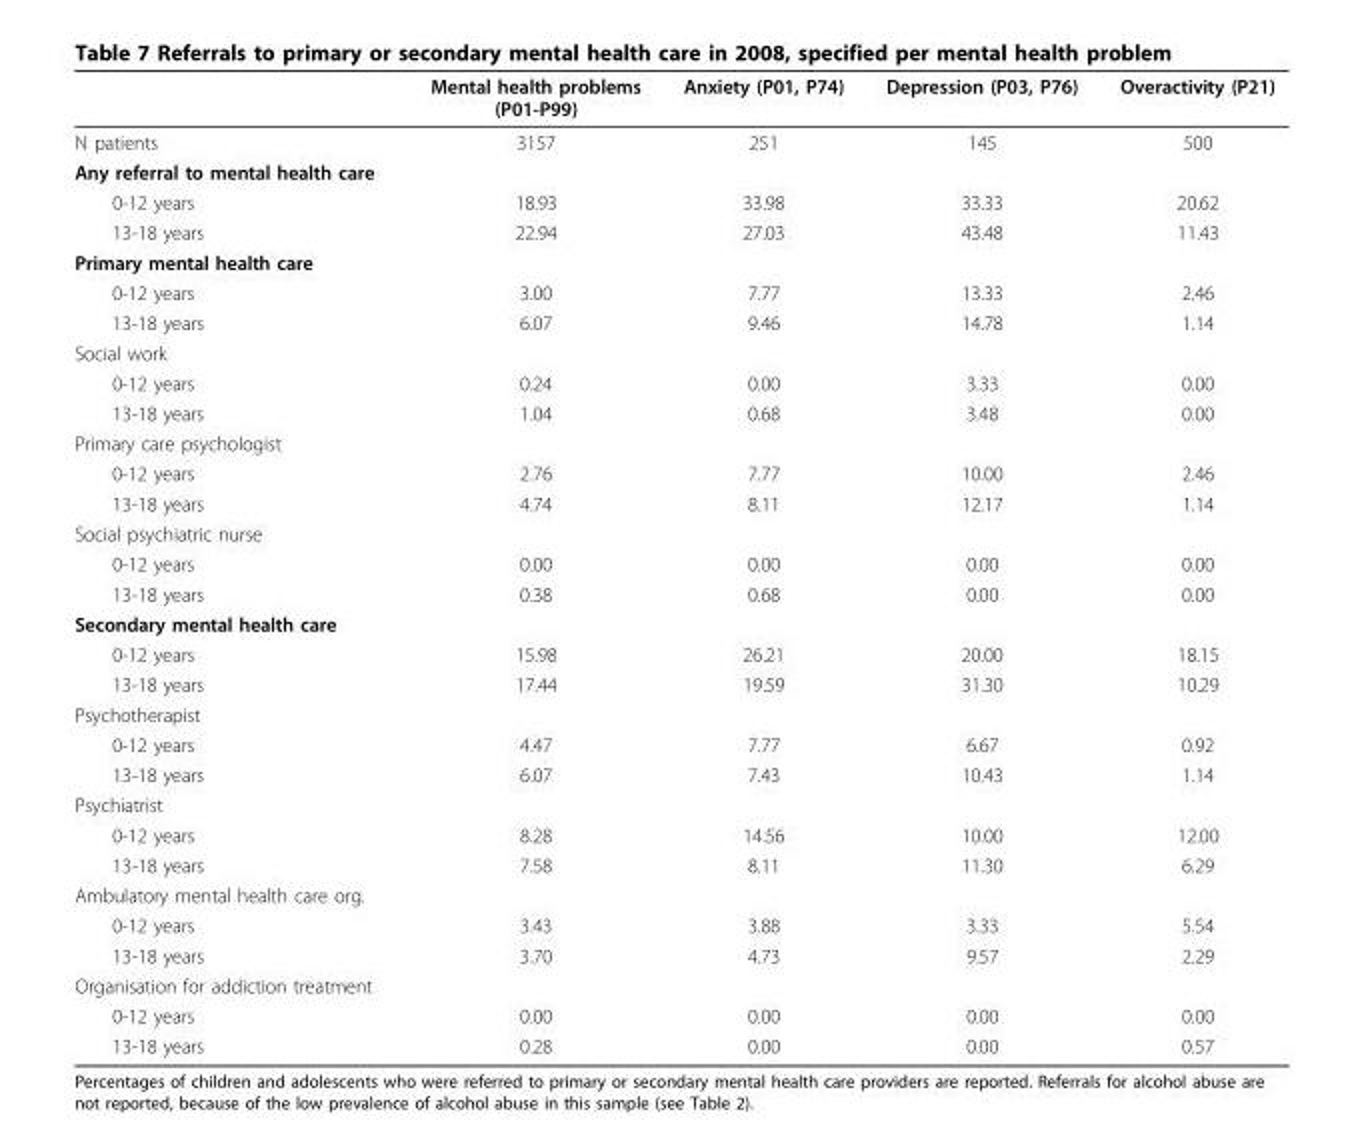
<table><thead><tr><td></td><td>Mental health problems (P01-P99)</td><td>Anxiety (P01, P74)</td><td>Depression (P03, P76)</td><td>Overactivity (P21)</td></tr></thead><tbody><tr><td>N patients</td><td>3157</td><td>251</td><td>145</td><td>500</td></tr><tr><td colspan="5">Any referral to mental health care</td></tr><tr><td>0-12 years</td><td>18.93</td><td>33.98</td><td>33.33</td><td>20.62</td></tr><tr><td>13-18 years</td><td>22.94</td><td>27.03</td><td>43.48</td><td>11.43</td></tr><tr><td colspan="5">Primary mental health care</td></tr><tr><td>0-12 years</td><td>3.00</td><td>7.77</td><td>13.33</td><td>2.46</td></tr><tr><td>13-18 years</td><td>6.07</td><td>9.46</td><td>14.78</td><td>1.14</td></tr><tr><td colspan="5">Social work</td></tr><tr><td>0-12 years</td><td>0.24</td><td>0.00</td><td>3.33</td><td>0.00</td></tr><tr><td>13-18 years</td><td>1.04</td><td>0.68</td><td>3.48</td><td>0.00</td></tr><tr><td colspan="5">Primary care psychologist</td></tr><tr><td>0-12 years</td><td>2.76</td><td>7.77</td><td>10.00</td><td>2.46</td></tr><tr><td>13-18 years</td><td>4.74</td><td>8.11</td><td>12.17</td><td>1.14</td></tr><tr><td colspan="5">Social psychiatric nurse</td></tr><tr><td>0-12 years</td><td>0.00</td><td>0.00</td><td>0.00</td><td>0.00</td></tr><tr><td>13-18 years</td><td>0.38</td><td>0.68</td><td>0.00</td><td>0.00</td></tr><tr><td colspan="5">Secondary mental health care</td></tr><tr><td>0-12 years</td><td>15.98</td><td>26.21</td><td>20.00</td><td>18.15</td></tr><tr><td>13-18 years</td><td>17.44</td><td>19.59</td><td>31.30</td><td>10.29</td></tr><tr><td colspan="5">Psychotherapist</td></tr><tr><td>0-12 years</td><td>4.47</td><td>7.77</td><td>6.67</td><td>0.92</td></tr><tr><td>13-18 years</td><td>6.07</td><td>7.43</td><td>10.43</td><td>1.14</td></tr><tr><td colspan="5">Psychiatrist</td></tr><tr><td>0-12 years</td><td>8.28</td><td>14.56</td><td>10.00</td><td>12.00</td></tr><tr><td>13-18 years</td><td>7.58</td><td>8.11</td><td>11.30</td><td>6.29</td></tr><tr><td colspan="5">Ambulatory mental health care org.</td></tr><tr><td>0-12 years</td><td>3.43</td><td>3.88</td><td>3.33</td><td>5.54</td></tr><tr><td>13-18 years</td><td>3.70</td><td>4.73</td><td>9.57</td><td>2.29</td></tr><tr><td colspan="5">Organisation for addiction treatment</td></tr><tr><td>0-12 years</td><td>0.00</td><td>0.00</td><td>0.00</td><td>0.00</td></tr><tr><td>13-18 years</td><td>0.28</td><td>0.00</td><td>0.00</td><td>0.57</td></tr></tbody></table>